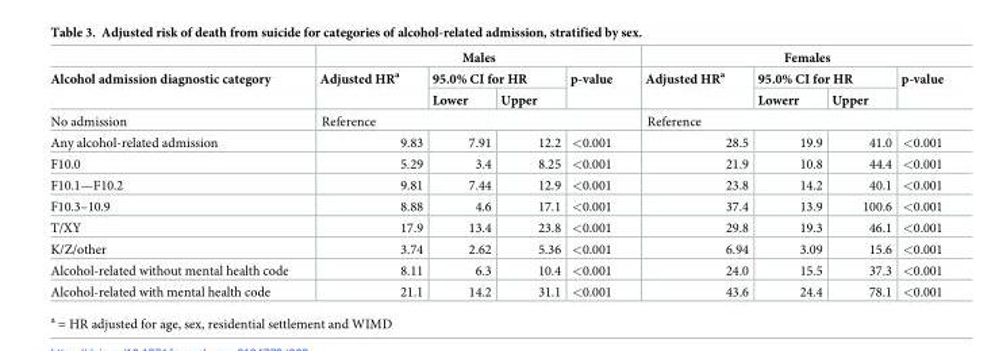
<table><thead><tr><td rowspan="3">Alcohol admission diagnostic category</td><td colspan="4">Males</td><td colspan="4">Females</td></tr><tr><td rowspan="2">Adjusted HR<sup>a</sup></td><td colspan="2">95.0% CI for HR</td><td rowspan="2">p-value</td><td rowspan="2">Adjusted HR<sup>a</sup></td><td colspan="2">95.0% CI for HR</td><td rowspan="2">p-value</td></tr><tr><td>Lower</td><td>Upper</td><td>Lowerr</td><td>Upper</td></tr></thead><tbody><tr><td>No admission</td><td colspan="4">Reference</td><td colspan="4">Reference</td></tr><tr><td>Any alcohol-related admission</td><td>9.83</td><td>7.91</td><td>12.2</td><td>&lt;0.001</td><td>28.5</td><td>19.9</td><td>41.0</td><td>&lt;0.001</td></tr><tr><td>F10.0</td><td>5.29</td><td>3.4</td><td>8.25</td><td>&lt;0.001</td><td>21.9</td><td>10.8</td><td>44.4</td><td>&lt;0.001</td></tr><tr><td>F10.1—F10.2</td><td>9.81</td><td>7.44</td><td>12.9</td><td>&lt;0.001</td><td>23.8</td><td>14.2</td><td>40.1</td><td>&lt;0.001</td></tr><tr><td>F10.3–10.9</td><td>8.88</td><td>4.6</td><td>17.1</td><td>&lt;0.001</td><td>37.4</td><td>13.9</td><td>100.6</td><td>&lt;0.001</td></tr><tr><td>T/XY</td><td>17.9</td><td>13.4</td><td>23.8</td><td>&lt;0.001</td><td>29.8</td><td>19.3</td><td>46.1</td><td>&lt;0.001</td></tr><tr><td>K/Z/other</td><td>3.74</td><td>2.62</td><td>5.36</td><td>&lt;0.001</td><td>6.94</td><td>3.09</td><td>15.6</td><td>&lt;0.001</td></tr><tr><td>Alcohol-related without mental health code</td><td>8.11</td><td>6.3</td><td>10.4</td><td>&lt;0.001</td><td>24.0</td><td>15.5</td><td>37.3</td><td>&lt;0.001</td></tr><tr><td>Alcohol-related with mental health code</td><td>21.1</td><td>14.2</td><td>31.1</td><td>&lt;0.001</td><td>43.6</td><td>24.4</td><td>78.1</td><td>&lt;0.001</td></tr></tbody></table>